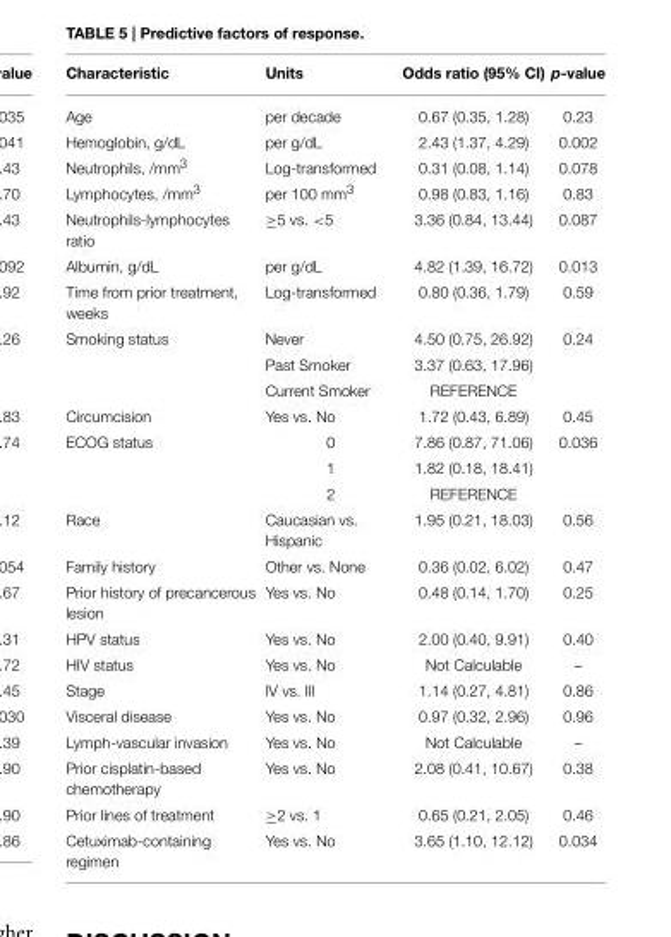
<table><thead><tr><td>Characteristic</td><td>Units</td><td>Odds ratio (95% CI)</td><td>p-value</td></tr></thead><tbody><tr><td>Age</td><td>per decade</td><td>0.67 (0.35, 1.28)</td><td>0.23</td></tr><tr><td>Hemoglobin, g/dL</td><td>per g/dL</td><td>2.43 (1.37, 4.29)</td><td>0.002</td></tr><tr><td>Neutrophils, /mm<sup>3</sup></td><td>Log-transformed</td><td>0.31 (0.08, 1.14)</td><td>0.078</td></tr><tr><td>Lymphocytes, /mm<sup>3</sup></td><td>per 100 mm<sup>3</sup></td><td>0.98 (0.83, 1.16)</td><td>0.83</td></tr><tr><td>Neutrophils-lymphocytes ratio</td><td>≥5 vs. &lt;5</td><td>3.36 (0.84, 13.44)</td><td>0.087</td></tr><tr><td>Albumin, g/dL</td><td>per g/dL</td><td>4.82 (1.39, 16.72)</td><td>0.013</td></tr><tr><td>Time from prior treatment, weeks</td><td>Log-transformed</td><td>0.80 (0.36, 1.79)</td><td>0.59</td></tr><tr><td rowspan="3">Smoking status</td><td>Never</td><td>4.50 (0.75, 26.92)</td><td>0.24</td></tr><tr><td>Past Smoker</td><td>3.37 (0.63, 17.96)</td><td></td></tr><tr><td>Current Smoker</td><td>REFERENCE</td><td></td></tr><tr><td>Circumcision</td><td>Yes vs. No</td><td>1.72 (0.43, 6.89)</td><td>0.45</td></tr><tr><td rowspan="3">ECOG status</td><td>0</td><td>7.86 (0.87, 71.06)</td><td>0.036</td></tr><tr><td>1</td><td>1.82 (0.18, 18.41)</td><td></td></tr><tr><td>2</td><td>REFERENCE</td><td></td></tr><tr><td>Race</td><td>Caucasian vs. Hispanic</td><td>1.95 (0.21, 18.03)</td><td>0.56</td></tr><tr><td>Family history</td><td>Other vs. None</td><td>0.36 (0.02, 6.02)</td><td>0.47</td></tr><tr><td>Prior history of precancerous lesion</td><td>Yes vs. No</td><td>0.48 (0.14, 1.70)</td><td>0.25</td></tr><tr><td>HPV status</td><td>Yes vs. No</td><td>2.00 (0.40, 9.91)</td><td>0.40</td></tr><tr><td>HIV status</td><td>Yes vs. No</td><td>Not Calculable</td><td>–</td></tr><tr><td>Stage</td><td>IV vs. III</td><td>1.14 (0.27, 4.81)</td><td>0.86</td></tr><tr><td>Visceral disease</td><td>Yes vs. No</td><td>0.97 (0.32, 2.96)</td><td>0.96</td></tr><tr><td>Lymph-vascular invasion</td><td>Yes vs. No</td><td>Not Calculable</td><td>–</td></tr><tr><td>Prior cisplatin-based chemotherapy</td><td>Yes vs. No</td><td>2.08 (0.41, 10.67)</td><td>0.38</td></tr><tr><td>Prior lines of treatment</td><td>≥2 vs. 1</td><td>0.65 (0.21, 2.05)</td><td>0.46</td></tr><tr><td>Cetuximab-containing regimen</td><td>Yes vs. No</td><td>3.65 (1.10, 12.12)</td><td>0.034</td></tr></tbody></table>